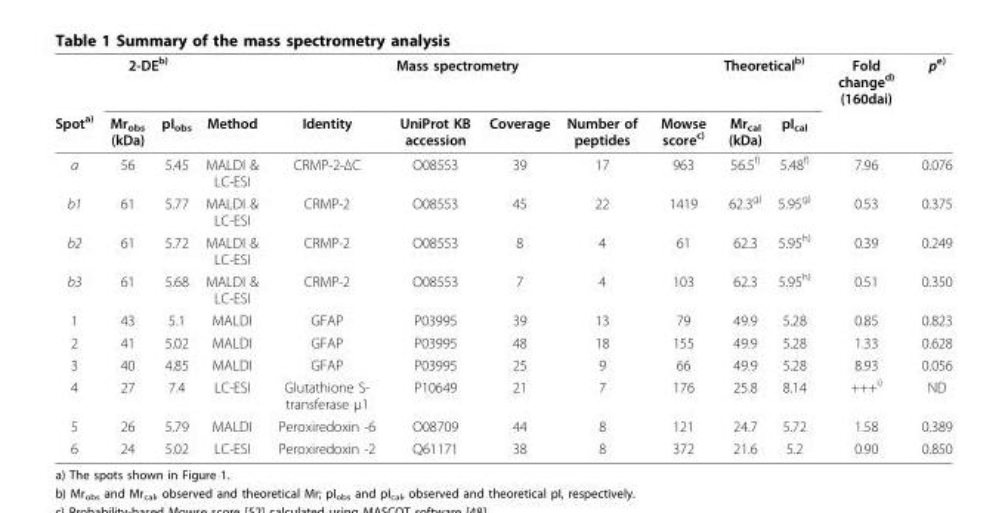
<table><thead><tr><td rowspan="2">Spot<sup>a)</sup></td><td colspan="2">2-DE<sup>b)</sup></td><td colspan="6">Mass spectrometry</td><td colspan="2">Theoretical<sup>b)</sup></td><td rowspan="2">Fold change<sup>d)</sup> (160dai)</td><td rowspan="2"><sub>p</sub>e)</td></tr><tr><td>Mr<sub>obs</sub> (kDa)</td><td>pI<sub>obs</sub></td><td>Method</td><td>Identity</td><td>UniProt KB accession</td><td>Coverage</td><td>Number of peptides</td><td>Mowse score<sup>c)</sup></td><td>Mr<sub>cal</sub> (kDa)</td><td>pI<sub>cal</sub></td></tr></thead><tbody><tr><td>a</td><td>56</td><td>5.45</td><td>MALDI &amp; LC-ESI</td><td>CRMP-2-ΔC</td><td>O08553</td><td>39</td><td>17</td><td>963</td><td>56.5<sup>f)</sup></td><td>5.48<sup>f)</sup></td><td>7.96</td><td>0.076</td></tr><tr><td>b1</td><td>61</td><td>5.77</td><td>MALDI &amp; LC-ESI</td><td>CRMP-2</td><td>O08553</td><td>45</td><td>22</td><td>1419</td><td>62.3<sup>g)</sup></td><td>5.95<sup>g)</sup></td><td>0.53</td><td>0.375</td></tr><tr><td>b2</td><td>61</td><td>5.72</td><td>MALDI &amp; LC-ESI</td><td>CRMP-2</td><td>O08553</td><td>8</td><td>4</td><td>61</td><td>62.3</td><td>5.95<sup>h)</sup></td><td>0.39</td><td>0.249</td></tr><tr><td>b3</td><td>61</td><td>5.68</td><td>MALDI &amp; LC-ESI</td><td>CRMP-2</td><td>O08553</td><td>7</td><td>4</td><td>103</td><td>62.3</td><td>5.95<sup>h)</sup></td><td>0.51</td><td>0.350</td></tr><tr><td>1</td><td>43</td><td>5.1</td><td>MALDI</td><td>GFAP</td><td>P03995</td><td>39</td><td>13</td><td>79</td><td>49.9</td><td>5.28</td><td>0.85</td><td>0.823</td></tr><tr><td>2</td><td>41</td><td>5.02</td><td>MALDI</td><td>GFAP</td><td>P03995</td><td>48</td><td>18</td><td>155</td><td>49.9</td><td>5.28</td><td>1.33</td><td>0.628</td></tr><tr><td>3</td><td>40</td><td>4.85</td><td>MALDI</td><td>GFAP</td><td>P03995</td><td>25</td><td>9</td><td>66</td><td>49.9</td><td>5.28</td><td>8.93</td><td>0.056</td></tr><tr><td>4</td><td>27</td><td>7.4</td><td>LC-ESI</td><td>Glutathione S- transferase μ1</td><td>P10649</td><td>21</td><td>7</td><td>176</td><td>25.8</td><td>8.14</td><td>+++<sup>i)</sup></td><td>ND</td></tr><tr><td>5</td><td>26</td><td>5.79</td><td>MALDI</td><td>Peroxiredoxin -6</td><td>O08709</td><td>44</td><td>8</td><td>121</td><td>24.7</td><td>5.72</td><td>1.58</td><td>0.389</td></tr><tr><td>6</td><td>24</td><td>5.02</td><td>LC-ESI</td><td>Peroxiredoxin -2</td><td>Q61171</td><td>38</td><td>8</td><td>372</td><td>21.6</td><td>5.2</td><td>0.90</td><td>0.850</td></tr></tbody></table>